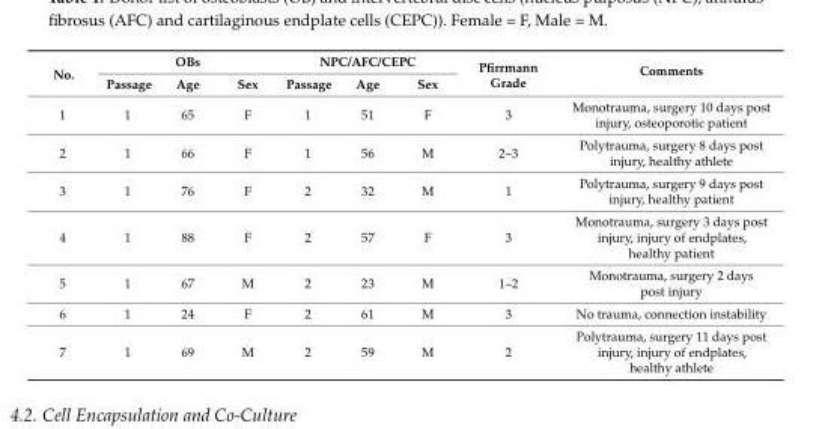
<table><thead><tr><td rowspan="2">No.</td><td colspan="3">OBs</td><td colspan="3">NPC/AFC/CEPC</td><td rowspan="2">Pfirrmann Grade</td><td rowspan="2">Comments</td></tr><tr><td>Passage</td><td>Age</td><td>Sex</td><td>Passage</td><td>Age</td><td>Sex</td></tr></thead><tbody><tr><td>1</td><td>1</td><td>65</td><td>F</td><td>1</td><td>51</td><td>F</td><td>3</td><td>Monotrauma, surgery 10 days post injury, osteoporotic patient</td></tr><tr><td>2</td><td>1</td><td>66</td><td>F</td><td>1</td><td>56</td><td>M</td><td>2–3</td><td>Polytrauma, surgery 8 days post injury, healthy athlete</td></tr><tr><td>3</td><td>1</td><td>76</td><td>F</td><td>2</td><td>32</td><td>M</td><td>1</td><td>Polytrauma, surgery 9 days post injury, healthy patient</td></tr><tr><td>4</td><td>1</td><td>88</td><td>F</td><td>2</td><td>57</td><td>F</td><td>3</td><td>Monotrauma, surgery 3 days post injury, injury of endplates, healthy patient</td></tr><tr><td>5</td><td>1</td><td>67</td><td>M</td><td>2</td><td>23</td><td>M</td><td>1–2</td><td>Monotrauma, surgery 2 days post injury</td></tr><tr><td>6</td><td>1</td><td>24</td><td>F</td><td>2</td><td>61</td><td>M</td><td>3</td><td>No trauma, connection instability</td></tr><tr><td>7</td><td>1</td><td>69</td><td>M</td><td>2</td><td>59</td><td>M</td><td>2</td><td>Polytrauma, surgery 11 days post injury, injury of endplates, healthy athlete</td></tr></tbody></table>